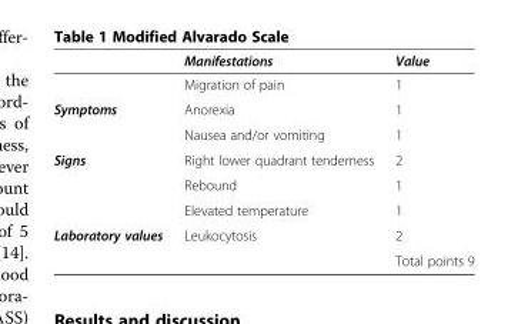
<table><thead><tr><td></td><td>Manifestations</td><td>Value</td></tr></thead><tbody><tr><td></td><td>Migration of pain</td><td>1</td></tr><tr><td rowspan="2">Symptoms</td><td>Anorexia</td><td>1</td></tr><tr><td>Nausea and/or vomiting</td><td>1</td></tr><tr><td rowspan="3">Signs</td><td>Right lower quadrant tenderness</td><td>2</td></tr><tr><td>Rebound</td><td>1</td></tr><tr><td>Elevated temperature</td><td>1</td></tr><tr><td rowspan="2">Laboratory values</td><td>Leukocytosis</td><td>2</td></tr><tr><td></td><td>Total points 9</td></tr></tbody></table>